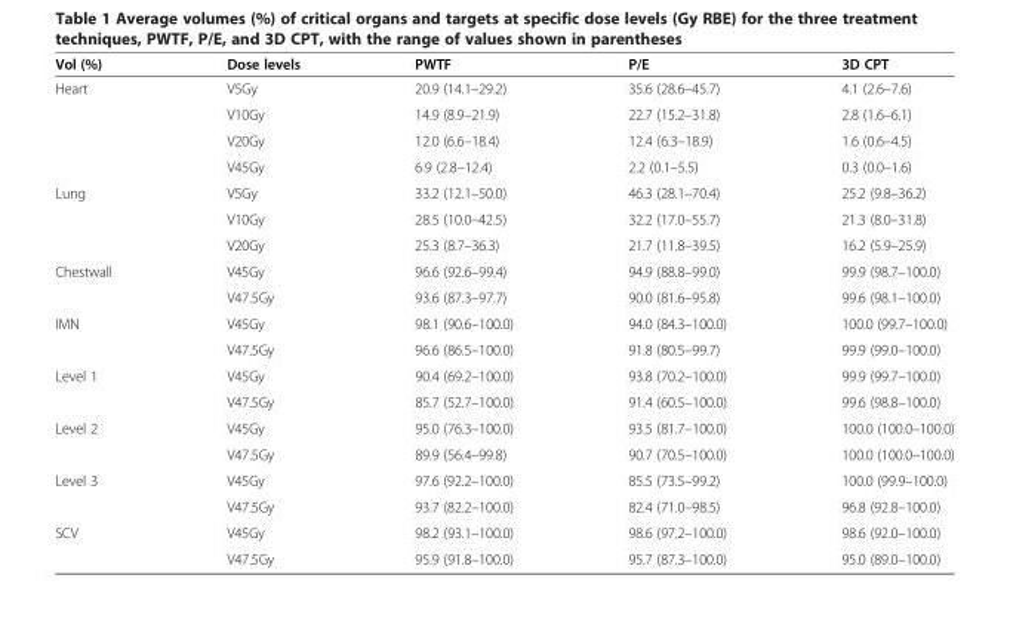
<table><thead><tr><td>Vol (%)</td><td>Dose levels</td><td>PWTF</td><td>P/E</td><td>3D CPT</td></tr></thead><tbody><tr><td rowspan="4">Heart</td><td>V5Gy</td><td>20.9 (14.1–29.2)</td><td>35.6 (28.6–45.7)</td><td>4.1 (2.6–7.6)</td></tr><tr><td>V10Gy</td><td>14.9 (8.9–21.9)</td><td>22.7 (15.2–31.8)</td><td>2.8 (1.6–6.1)</td></tr><tr><td>V20Gy</td><td>12.0 (6.6–18.4)</td><td>12.4 (6.3–18.9)</td><td>1.6 (0.6–4.5)</td></tr><tr><td>V45Gy</td><td>6.9 (2.8–12.4)</td><td>2.2 (0.1–5.5)</td><td>0.3 (0.0–1.6)</td></tr><tr><td rowspan="3">Lung</td><td>V5Gy</td><td>33.2 (12.1–50.0)</td><td>46.3 (28.1–70.4)</td><td>25.2 (9.8–36.2)</td></tr><tr><td>V10Gy</td><td>28.5 (10.0–42.5)</td><td>32.2 (17.0–55.7)</td><td>21.3 (8.0–31.8)</td></tr><tr><td>V20Gy</td><td>25.3 (8.7–36.3)</td><td>21.7 (11.8–39.5)</td><td>16.2 (5.9–25.9)</td></tr><tr><td rowspan="2">Chestwall</td><td>V45Gy</td><td>96.6 (92.6–99.4)</td><td>94.9 (88.8–99.0)</td><td>99.9 (98.7–100.0)</td></tr><tr><td>V47.5Gy</td><td>93.6 (87.3–97.7)</td><td>90.0 (81.6–95.8)</td><td>99.6 (98.1–100.0)</td></tr><tr><td rowspan="2">IMN</td><td>V45Gy</td><td>98.1 (90.6–100.0)</td><td>94.0 (84.3–100.0)</td><td>100.0 (99.7–100.0)</td></tr><tr><td>V47.5Gy</td><td>96.6 (86.5–100.0)</td><td>91.8 (80.5–99.7)</td><td>99.9 (99.0–100.0)</td></tr><tr><td rowspan="2">Level 1</td><td>V45Gy</td><td>90.4 (69.2–100.0)</td><td>93.8 (70.2–100.0)</td><td>99.9 (99.7–100.0)</td></tr><tr><td>V47.5Gy</td><td>85.7 (52.7–100.0)</td><td>91.4 (60.5–100.0)</td><td>99.6 (98.8–100.0)</td></tr><tr><td rowspan="2">Level 2</td><td>V45Gy</td><td>95.0 (76.3–100.0)</td><td>93.5 (81.7–100.0)</td><td>100.0 (100.0–100.0)</td></tr><tr><td>V47.5Gy</td><td>89.9 (56.4–99.8)</td><td>90.7 (70.5–100.0)</td><td>100.0 (100.0–100.0)</td></tr><tr><td rowspan="2">Level 3</td><td>V45Gy</td><td>97.6 (92.2–100.0)</td><td>85.5 (73.5–99.2)</td><td>100.0 (99.9–100.0)</td></tr><tr><td>V47.5Gy</td><td>93.7 (82.2–100.0)</td><td>82.4 (71.0–98.5)</td><td>96.8 (92.8–100.0)</td></tr><tr><td rowspan="2">SCV</td><td>V45Gy</td><td>98.2 (93.1–100.0)</td><td>98.6 (97.2–100.0)</td><td>98.6 (92.0–100.0)</td></tr><tr><td>V47.5Gy</td><td>95.9 (91.8–100.0)</td><td>95.7 (87.3–100.0)</td><td>95.0 (89.0–100.0)</td></tr></tbody></table>